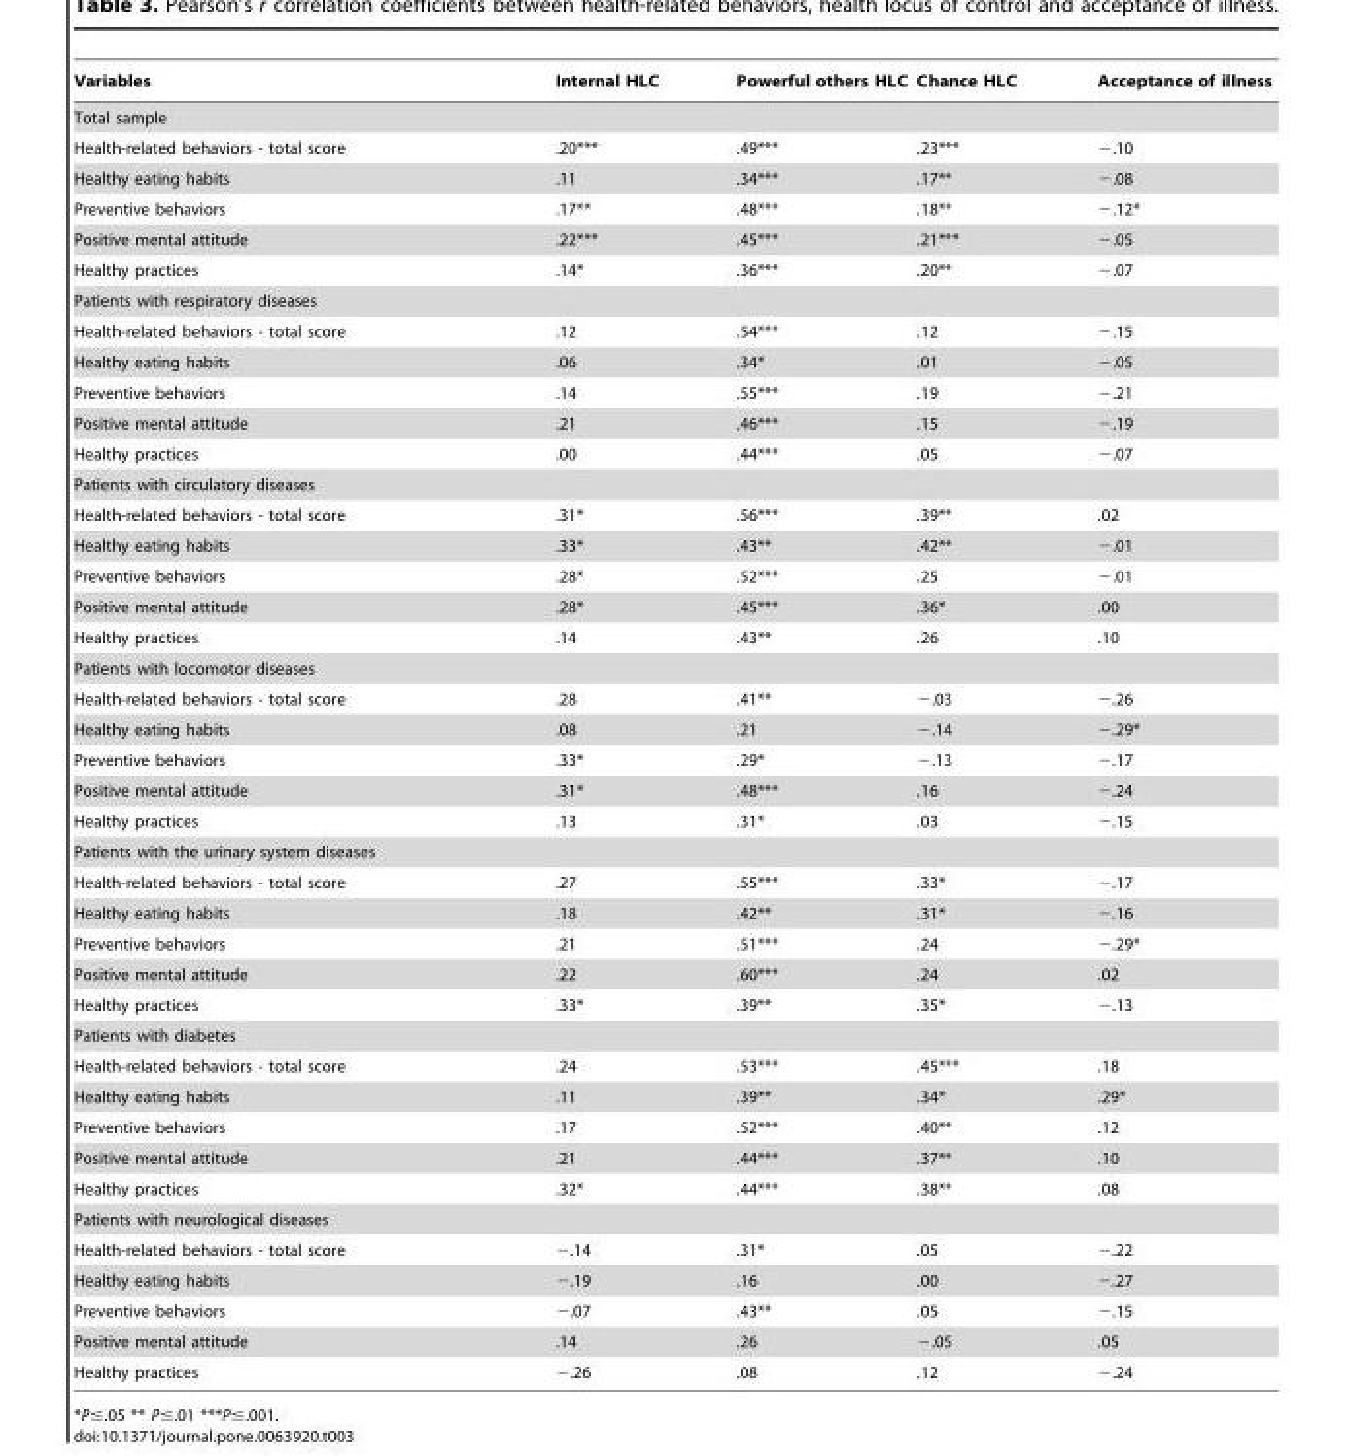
<table><thead><tr><td>Variables</td><td>Internal HLC</td><td>Powerful others HLC</td><td>Chance HLC</td><td>Acceptance of illness</td></tr></thead><tbody><tr><td colspan="5">Total sample</td></tr><tr><td>Health-related behaviors - total score</td><td>.20***</td><td>.49***</td><td>.23***</td><td>−.10</td></tr><tr><td>Healthy eating habits</td><td>.11</td><td>.34***</td><td>.17**</td><td>−.08</td></tr><tr><td>Preventive behaviors</td><td>.17**</td><td>.48***</td><td>.18**</td><td>−.12*</td></tr><tr><td>Positive mental attitude</td><td>.22***</td><td>.45***</td><td>.21***</td><td>−.05</td></tr><tr><td>Healthy practices</td><td>.14*</td><td>.36***</td><td>.20**</td><td>−.07</td></tr><tr><td colspan="5">Patients with respiratory diseases</td></tr><tr><td>Health-related behaviors - total score</td><td>.12</td><td>.54***</td><td>.12</td><td>−.15</td></tr><tr><td>Healthy eating habits</td><td>.06</td><td>.34*</td><td>.01</td><td>−.05</td></tr><tr><td>Preventive behaviors</td><td>.14</td><td>.55***</td><td>.19</td><td>−.21</td></tr><tr><td>Positive mental attitude</td><td>.21</td><td>.46***</td><td>.15</td><td>−.19</td></tr><tr><td>Healthy practices</td><td>.00</td><td>.44***</td><td>.05</td><td>−.07</td></tr><tr><td colspan="5">Patients with circulatory diseases</td></tr><tr><td>Health-related behaviors - total score</td><td>.31*</td><td>.56***</td><td>.39**</td><td>.02</td></tr><tr><td>Healthy eating habits</td><td>.33*</td><td>.43**</td><td>.42**</td><td>−.01</td></tr><tr><td>Preventive behaviors</td><td>.28*</td><td>.52***</td><td>.25</td><td>−.01</td></tr><tr><td>Positive mental attitude</td><td>.28*</td><td>.45***</td><td>.36*</td><td>.00</td></tr><tr><td>Healthy practices</td><td>.14</td><td>.43**</td><td>.26</td><td>.10</td></tr><tr><td colspan="5">Patients with locomotor diseases</td></tr><tr><td>Health-related behaviors - total score</td><td>.28</td><td>.41**</td><td>−.03</td><td>−.26</td></tr><tr><td>Healthy eating habits</td><td>.08</td><td>.21</td><td>−.14</td><td>−.29*</td></tr><tr><td>Preventive behaviors</td><td>.33*</td><td>.29*</td><td>−.13</td><td>−.17</td></tr><tr><td>Positive mental attitude</td><td>.31*</td><td>.48***</td><td>.16</td><td>−.24</td></tr><tr><td>Healthy practices</td><td>.13</td><td>.31*</td><td>.03</td><td>−.15</td></tr><tr><td colspan="5">Patients with the urinary system diseases</td></tr><tr><td>Health-related behaviors - total score</td><td>.27</td><td>.55***</td><td>.33*</td><td>−.17</td></tr><tr><td>Healthy eating habits</td><td>.18</td><td>.42**</td><td>.31*</td><td>−.16</td></tr><tr><td>Preventive behaviors</td><td>.21</td><td>.51***</td><td>.24</td><td>−.29*</td></tr><tr><td>Positive mental attitude</td><td>.22</td><td>.60***</td><td>.24</td><td>.02</td></tr><tr><td>Healthy practices</td><td>.33*</td><td>.39**</td><td>.35*</td><td>−.13</td></tr><tr><td colspan="5">Patients with diabetes</td></tr><tr><td>Health-related behaviors - total score</td><td>.24</td><td>.53***</td><td>.45***</td><td>.18</td></tr><tr><td>Healthy eating habits</td><td>.11</td><td>.39**</td><td>.34*</td><td>.29*</td></tr><tr><td>Preventive behaviors</td><td>.17</td><td>.52***</td><td>.40**</td><td>.12</td></tr><tr><td>Positive mental attitude</td><td>.21</td><td>.44***</td><td>.37**</td><td>.10</td></tr><tr><td>Healthy practices</td><td>.32*</td><td>.44***</td><td>.38**</td><td>.08</td></tr><tr><td colspan="5">Patients with neurological diseases</td></tr><tr><td>Health-related behaviors - total score</td><td>−.14</td><td>.31*</td><td>.05</td><td>−.22</td></tr><tr><td>Healthy eating habits</td><td>−.19</td><td>.16</td><td>.00</td><td>−.27</td></tr><tr><td>Preventive behaviors</td><td>−.07</td><td>.43**</td><td>.05</td><td>−.15</td></tr><tr><td>Positive mental attitude</td><td>.14</td><td>.26</td><td>−.05</td><td>.05</td></tr><tr><td>Healthy practices</td><td>−.26</td><td>.08</td><td>.12</td><td>−.24</td></tr></tbody></table>